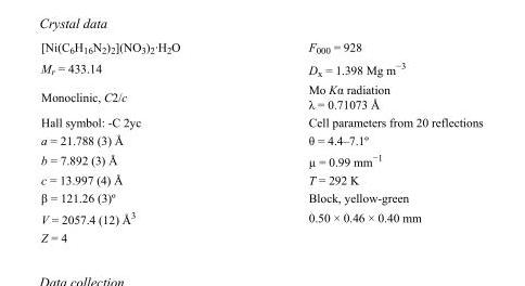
<table><tbody><tr><td>[Ni(C<sub>6</sub>H<sub>16</sub>N<sub>2</sub>)<sub>2</sub>](NO<sub>3</sub>)<sub>2</sub>·H<sub>2</sub>O</td><td>F000 = 928</td></tr><tr><td>M<sub>r</sub> = 433.14</td><td>D<sub>x</sub> = 1.398 Mg m<sup>−3</sup></td></tr><tr><td>Monoclinic, C2/c</td><td>Mo Kα radiation λ = 0.71073 Å</td></tr><tr><td>Hall symbol: -C 2yc</td><td>Cell parameters from 20 reflections</td></tr><tr><td>a = 21.788 (3) Å</td><td>θ = 4.4–7.1º</td></tr><tr><td>b = 7.892 (3) Å</td><td>µ = 0.99 mm<sup>−1</sup></td></tr><tr><td>c = 13.997 (4) Å</td><td>T = 292 K</td></tr><tr><td>β = 121.26 (3)º</td><td>Block, yellow-green</td></tr><tr><td>V = 2057.4 (12) Å<sup>3</sup></td><td>0.50 × 0.46 × 0.40 mm</td></tr><tr><td>Z = 4</td><td></td></tr></tbody></table>